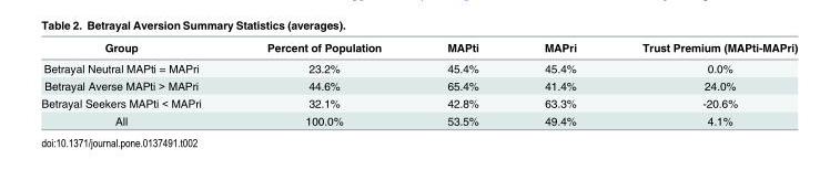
<table><thead><tr><td>Group</td><td>Percent of Population</td><td>MAPti</td><td>MAPri</td><td>Trust Premium (MAPti-MAPri)</td></tr></thead><tbody><tr><td>Betrayal Neutral MAPti = MAPri</td><td>23.2%</td><td>45.4%</td><td>45.4%</td><td>0.0%</td></tr><tr><td>Betrayal Averse MAPti &gt; MAPri</td><td>44.6%</td><td>65.4%</td><td>41.4%</td><td>24.0%</td></tr><tr><td>Betrayal Seekers MAPti &lt; MAPri</td><td>32.1%</td><td>42.8%</td><td>63.3%</td><td>-20.6%</td></tr><tr><td>All</td><td>100.0%</td><td>53.5%</td><td>49.4%</td><td>4.1%</td></tr></tbody></table>